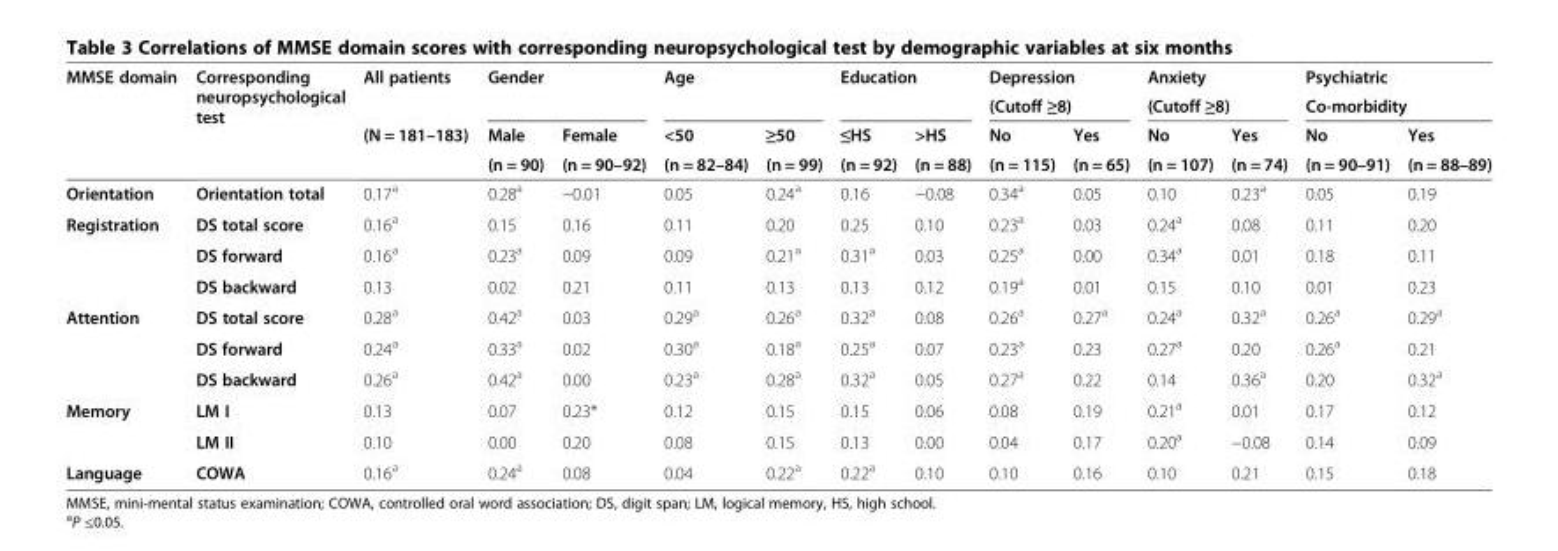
<table><thead><tr><td rowspan="4">MMSE domain</td><td rowspan="4">Corresponding neuropsychological test</td><td rowspan="4">All patients (N = 181–183)</td><td rowspan="2" colspan="2">Gender</td><td rowspan="2" colspan="2">Age</td><td rowspan="2" colspan="2">Education</td><td rowspan="2" colspan="2">Depression (Cutoff ≥8)</td><td rowspan="2" colspan="2">Anxiety (Cutoff ≥8)</td><td rowspan="2" colspan="2">Psychiatric Co-morbidity</td></tr><tr></tr><tr><td rowspan="2">Male (n = 90)</td><td rowspan="2">Female (n = 90–92)</td><td rowspan="2">&lt;50 (n = 82–84)</td><td rowspan="2">≥50 (n = 99)</td><td rowspan="2">≤HS (n = 92)</td><td rowspan="2">&gt;HS (n = 88)</td><td rowspan="2">No (n = 115)</td><td rowspan="2">Yes (n = 65)</td><td rowspan="2">No (n = 107)</td><td rowspan="2">Yes (n = 74)</td><td rowspan="2">No (n = 90–91)</td><td rowspan="2">Yes (n = 88–89)</td></tr><tr></tr></thead><tbody><tr><td>Orientation</td><td>Orientation total</td><td>0.17<sup>a</sup></td><td>0.28<sup>a</sup></td><td>−0.01</td><td>0.05</td><td>0.24<sup>a</sup></td><td>0.16</td><td>−0.08</td><td>0.34<sup>a</sup></td><td>0.05</td><td>0.10</td><td>0.23<sup>a</sup></td><td>0.05</td><td>0.19</td></tr><tr><td rowspan="3">Registration</td><td>DS total score</td><td>0.16<sup>a</sup></td><td>0.15</td><td>0.16</td><td>0.11</td><td>0.20</td><td>0.25</td><td>0.10</td><td>0.23<sup>a</sup></td><td>0.03</td><td>0.24<sup>a</sup></td><td>0.08</td><td>0.11</td><td>0.20</td></tr><tr><td>DS forward</td><td>0.16<sup>a</sup></td><td>0.23<sup>a</sup></td><td>0.09</td><td>0.09</td><td>0.21<sup>a</sup></td><td>0.31<sup>a</sup></td><td>0.03</td><td>0.25<sup>a</sup></td><td>0.00</td><td>0.34<sup>a</sup></td><td>0.01</td><td>0.18</td><td>0.11</td></tr><tr><td>DS backward</td><td>0.13</td><td>0.02</td><td>0.21</td><td>0.11</td><td>0.13</td><td>0.13</td><td>0.12</td><td>0.19<sup>a</sup></td><td>0.01</td><td>0.15</td><td>0.10</td><td>0.01</td><td>0.23</td></tr><tr><td rowspan="3">Attention</td><td>DS total score</td><td>0.28<sup>a</sup></td><td>0.42<sup>a</sup></td><td>0.03</td><td>0.29<sup>a</sup></td><td>0.26<sup>a</sup></td><td>0.32<sup>a</sup></td><td>0.08</td><td>0.26<sup>a</sup></td><td>0.27<sup>a</sup></td><td>0.24<sup>a</sup></td><td>0.32<sup>a</sup></td><td>0.26<sup>a</sup></td><td>0.29<sup>a</sup></td></tr><tr><td>DS forward</td><td>0.24<sup>a</sup></td><td>0.33<sup>a</sup></td><td>0.02</td><td>0.30<sup>a</sup></td><td>0.18<sup>a</sup></td><td>0.25<sup>a</sup></td><td>0.07</td><td>0.23<sup>a</sup></td><td>0.23</td><td>0.27<sup>a</sup></td><td>0.20</td><td>0.26<sup>a</sup></td><td>0.21</td></tr><tr><td>DS backward</td><td>0.26<sup>a</sup></td><td>0.42<sup>a</sup></td><td>0.00</td><td>0.23<sup>a</sup></td><td>0.28<sup>a</sup></td><td>0.32<sup>a</sup></td><td>0.05</td><td>0.27<sup>a</sup></td><td>0.22</td><td>0.14</td><td>0.36<sup>a</sup></td><td>0.20</td><td>0.32<sup>a</sup></td></tr><tr><td rowspan="2">Memory</td><td>LM I</td><td>0.13</td><td>0.07</td><td>0.23*</td><td>0.12</td><td>0.15</td><td>0.15</td><td>0.06</td><td>0.08</td><td>0.19</td><td>0.21<sup>a</sup></td><td>0.01</td><td>0.17</td><td>0.12</td></tr><tr><td>LM II</td><td>0.10</td><td>0.00</td><td>0.20</td><td>0.08</td><td>0.15</td><td>0.13</td><td>0.00</td><td>0.04</td><td>0.17</td><td>0.20<sup>a</sup></td><td>−0.08</td><td>0.14</td><td>0.09</td></tr><tr><td>Language</td><td>COWA</td><td>0.16<sup>a</sup></td><td>0.24<sup>a</sup></td><td>0.08</td><td>0.04</td><td>0.22<sup>a</sup></td><td>0.22<sup>a</sup></td><td>0.10</td><td>0.10</td><td>0.16</td><td>0.10</td><td>0.21</td><td>0.15</td><td>0.18</td></tr></tbody></table>